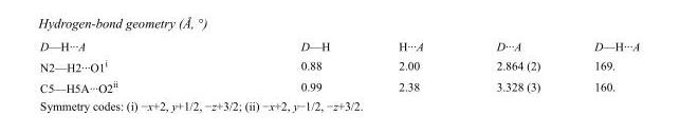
<table><tbody><tr><td>D—H···A</td><td>D—H</td><td>H···A</td><td>D···A</td><td>D—H···A</td></tr><tr><td>N2—H2···O1<sup>i</sup></td><td>0.88</td><td>2.00</td><td>2.864 (2)</td><td>169.</td></tr><tr><td>C5—H5A···O2<sup>ii</sup></td><td>0.99</td><td>2.38</td><td>3.328 (3)</td><td>160.</td></tr></tbody></table>